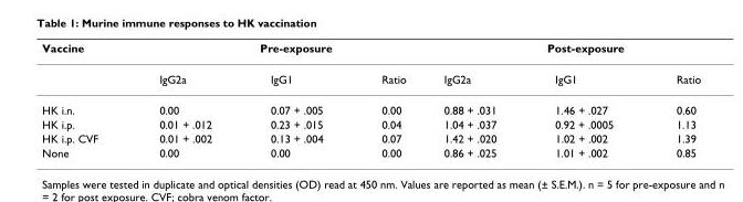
<table><thead><tr><td rowspan="2">Vaccine</td><td colspan="3">Pre-exposure</td><td colspan="3">Post-exposure</td></tr><tr><td>IgG2a</td><td>IgG1</td><td>Ratio</td><td>IgG2a</td><td>IgG1</td><td>Ratio</td></tr></thead><tbody><tr><td>HK i.n.</td><td>0.00</td><td>0.07 + .005</td><td>0.00</td><td>0.88 + .031</td><td>1.46 + .027</td><td>0.60</td></tr><tr><td>HK i.p.</td><td>0.01 + .012</td><td>0.23 + .015</td><td>0.04</td><td>1.04 + .037</td><td>0.92 + .0005</td><td>1.13</td></tr><tr><td>HK i.p. CVF</td><td>0.01 + .002</td><td>0.13 + .004</td><td>0.07</td><td>1.42 + .020</td><td>1.02 + .002</td><td>1.39</td></tr><tr><td>None</td><td>0.00</td><td>0.00</td><td>0.00</td><td>0.86 + .025</td><td>1.01 + .002</td><td>0.85</td></tr></tbody></table>